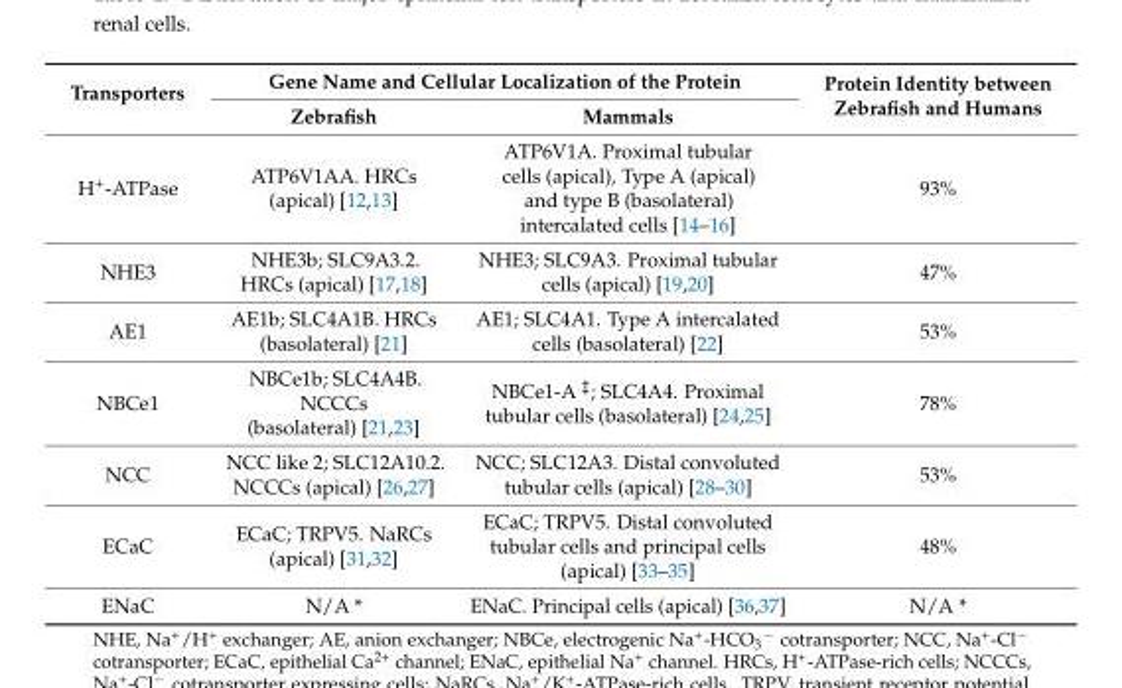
<table><thead><tr><td rowspan="2">Transporters</td><td colspan="2">Gene Name and Cellular Localization of the Protein</td><td rowspan="2">Protein Identity between Zebrafish and Humans</td></tr><tr><td>Zebrafish</td><td>Mammals</td></tr></thead><tbody><tr><td>H<sup>+</sup>-ATPase</td><td>ATP6V1AA. HRCs (apical) [12,13]</td><td>ATP6V1A. Proximal tubular cells (apical), Type A (apical) and type B (basolateral) intercalated cells [14–16]</td><td>93%</td></tr><tr><td>NHE3</td><td>NHE3b; SLC9A3.2. HRCs (apical) [17,18]</td><td>NHE3; SLC9A3. Proximal tubular cells (apical) [19,20]</td><td>47%</td></tr><tr><td>AE1</td><td>AE1b; SLC4A1B. HRCs (basolateral) [21]</td><td>AE1; SLC4A1. Type A intercalated cells (basolateral) [22]</td><td>53%</td></tr><tr><td>NBCe1</td><td>NBCe1b; SLC4A4B. NCCCs (basolateral) [21,23]</td><td>NBCe1-A <sup>‡</sup>; SLC4A4. Proximal tubular cells (basolateral) [24,25]</td><td>78%</td></tr><tr><td>NCC</td><td>NCC like 2; SLC12A10.2. NCCCs (apical) [26,27]</td><td>NCC; SLC12A3. Distal convoluted tubular cells (apical) [28–30]</td><td>53%</td></tr><tr><td>ECaC</td><td>ECaC; TRPV5. NaRCs (apical) [31,32]</td><td>ECaC; TRPV5. Distal convoluted tubular cells and principal cells (apical) [33–35]</td><td>48%</td></tr><tr><td>ENaC</td><td>N/A *</td><td>ENaC. Principal cells (apical) [36,37]</td><td>N/A *</td></tr></tbody></table>